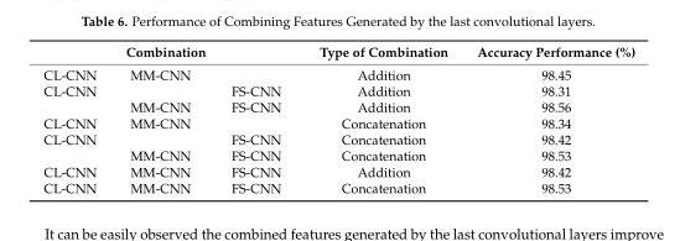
<table><thead><tr><td colspan="3">Combination</td><td rowspan="2">Type of Combination Addition</td><td rowspan="2">Accuracy Performance (%) 98.45</td></tr><tr><td>CL-CNN</td><td>MM-CNN</td><td></td></tr></thead><tbody><tr><td rowspan="2">CL-CNN</td><td></td><td>FS-CNN</td><td>Addition</td><td>98.31</td></tr><tr><td>MM-CNN</td><td>FS-CNN</td><td>Addition</td><td>98.56</td></tr><tr><td>CL-CNN</td><td>MM-CNN</td><td></td><td>Concatenation</td><td>98.34</td></tr><tr><td rowspan="2">CL-CNN</td><td></td><td>FS-CNN</td><td>Concatenation</td><td>98.42</td></tr><tr><td>MM-CNN</td><td>FS-CNN</td><td>Concatenation</td><td>98.53</td></tr><tr><td>CL-CNN</td><td>MM-CNN</td><td>FS-CNN</td><td>Addition</td><td>98.42</td></tr><tr><td>CL-CNN</td><td>MM-CNN</td><td>FS-CNN</td><td>Concatenation</td><td>98.53</td></tr></tbody></table>